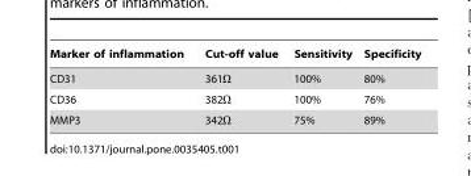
<table><thead><tr><td>Marker of inflammation</td><td>Cut-off value</td><td>Sensitivity</td><td>Specificity</td></tr></thead><tbody><tr><td>CD31</td><td>361Ω</td><td>100%</td><td>80%</td></tr><tr><td>CD36</td><td>382Ω</td><td>100%</td><td>76%</td></tr><tr><td>MMP3</td><td>342Ω</td><td>75%</td><td>89%</td></tr></tbody></table>